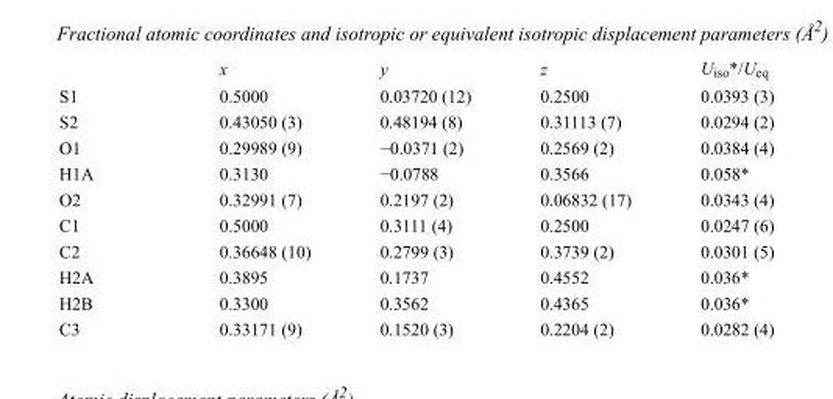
<table><thead><tr><td></td><td>x</td><td>y</td><td>z</td><td>U<sub>iso</sub>*/U<sub>eq</sub></td></tr></thead><tbody><tr><td>S1</td><td>0.5000</td><td>0.03720 (12)</td><td>0.2500</td><td>0.0393 (3)</td></tr><tr><td>S2</td><td>0.43050 (3)</td><td>0.48194 (8)</td><td>0.31113 (7)</td><td>0.0294 (2)</td></tr><tr><td>O1</td><td>0.29989 (9)</td><td>−0.0371 (2)</td><td>0.2569 (2)</td><td>0.0384 (4)</td></tr><tr><td>H1A</td><td>0.3130</td><td>−0.0788</td><td>0.3566</td><td>0.058*</td></tr><tr><td>O2</td><td>0.32991 (7)</td><td>0.2197 (2)</td><td>0.06832 (17)</td><td>0.0343 (4)</td></tr><tr><td>C1</td><td>0.5000</td><td>0.3111 (4)</td><td>0.2500</td><td>0.0247 (6)</td></tr><tr><td>C2</td><td>0.36648 (10)</td><td>0.2799 (3)</td><td>0.3739 (2)</td><td>0.0301 (5)</td></tr><tr><td>H2A</td><td>0.3895</td><td>0.1737</td><td>0.4552</td><td>0.036*</td></tr><tr><td>H2B</td><td>0.3300</td><td>0.3562</td><td>0.4365</td><td>0.036*</td></tr><tr><td>C3</td><td>0.33171 (9)</td><td>0.1520 (3)</td><td>0.2204 (2)</td><td>0.0282 (4)</td></tr></tbody></table>